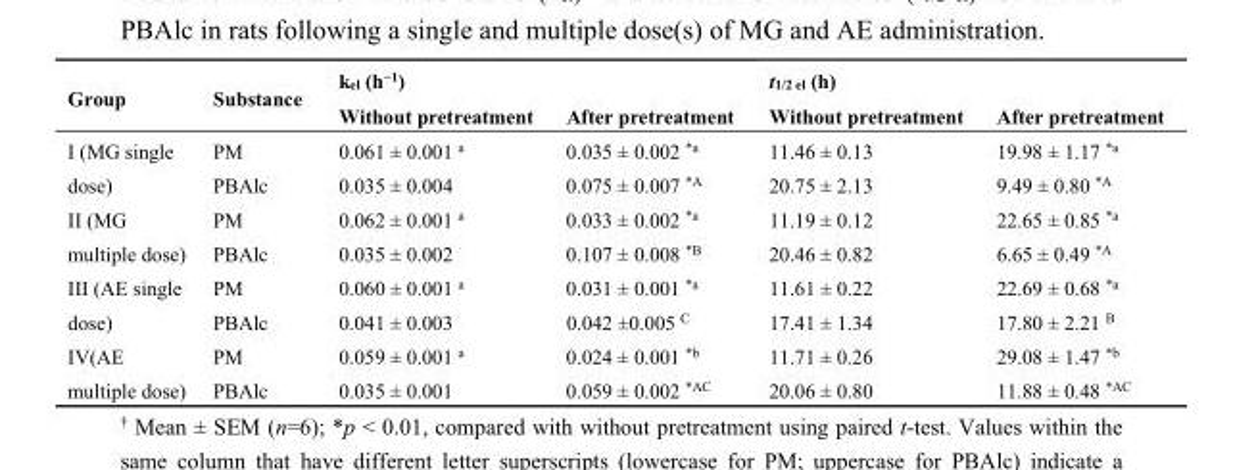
<table><thead><tr><td rowspan="2">Group</td><td rowspan="2">Substance</td><td colspan="2">k<sub>el</sub> (h<sup>−1</sup>)</td><td colspan="2">t<sub>1/2 el</sub> (h)</td></tr><tr><td>Without pretreatment</td><td>After pretreatment</td><td>Without pretreatment</td><td>After pretreatment</td></tr></thead><tbody><tr><td rowspan="2">I (MG single dose)</td><td>PM</td><td>0.061 ± 0.001 <sup>a</sup></td><td>0.035 ± 0.002 <sup>*a</sup></td><td>11.46 ± 0.13</td><td>19.98 ± 1.17 <sup>*a</sup></td></tr><tr><td>PBAlc</td><td>0.035 ± 0.004</td><td>0.075 ± 0.007 <sup>*A</sup></td><td>20.75 ± 2.13</td><td>9.49 ± 0.80 <sup>*A</sup></td></tr><tr><td rowspan="2">II (MG multiple dose)</td><td>PM</td><td>0.062 ± 0.001 <sup>a</sup></td><td>0.033 ± 0.002 <sup>*a</sup></td><td>11.19 ± 0.12</td><td>22.65 ± 0.85 <sup>*a</sup></td></tr><tr><td>PBAlc</td><td>0.035 ± 0.002</td><td>0.107 ± 0.008 <sup>*B</sup></td><td>20.46 ± 0.82</td><td>6.65 ± 0.49 <sup>*A</sup></td></tr><tr><td rowspan="2">III (AE single dose)</td><td>PM</td><td>0.060 ± 0.001 <sup>a</sup></td><td>0.031 ± 0.001 <sup>*a</sup></td><td>11.61 ± 0.22</td><td>22.69 ± 0.68 <sup>*a</sup></td></tr><tr><td>PBAlc</td><td>0.041 ± 0.003</td><td>0.042 ±0.005 <sup>C</sup></td><td>17.41 ± 1.34</td><td>17.80 ± 2.21 <sup>B</sup></td></tr><tr><td rowspan="2">IV(AE multiple dose)</td><td>PM</td><td>0.059 ± 0.001 <sup>a</sup></td><td>0.024 ± 0.001 <sup>*b</sup></td><td>11.71 ± 0.26</td><td>29.08 ± 1.47 <sup>*b</sup></td></tr><tr><td>PBAlc</td><td>0.035 ± 0.001</td><td>0.059 ± 0.002 <sup>*AC</sup></td><td>20.06 ± 0.80</td><td>11.88 ± 0.48 <sup>*AC</sup></td></tr></tbody></table>